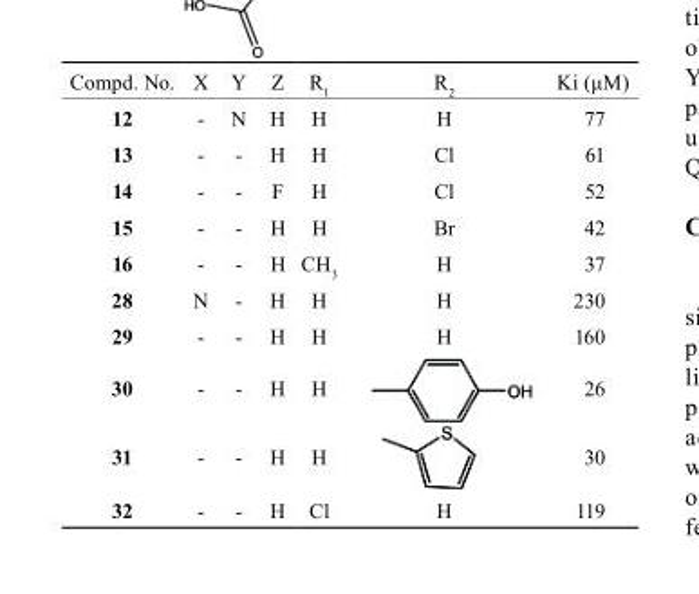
<table><thead><tr><td>Compd. No.</td><td>X</td><td>Y</td><td>Z</td><td>R<sub>1</sub></td><td>R<sub>2</sub></td><td>Ki (μM)</td></tr></thead><tbody><tr><td>12</td><td>-</td><td>N</td><td>H</td><td>H</td><td>H</td><td>77</td></tr><tr><td>13</td><td>-</td><td>-</td><td>H</td><td>H</td><td>Cl</td><td>61</td></tr><tr><td>14</td><td>-</td><td>-</td><td>F</td><td>H</td><td>Cl</td><td>52</td></tr><tr><td>15</td><td>-</td><td>-</td><td>H</td><td>H</td><td>Br</td><td>42</td></tr><tr><td>16</td><td>-</td><td>-</td><td>H</td><td>CH<sub>3</sub></td><td>H</td><td>37</td></tr><tr><td>28</td><td>N</td><td>-</td><td>H</td><td>H</td><td>H</td><td>230</td></tr><tr><td>29</td><td>-</td><td>-</td><td>H</td><td>H</td><td>H</td><td>160</td></tr><tr><td>30</td><td>-</td><td>-</td><td>H</td><td>H</td><td></td><td>26</td></tr><tr><td>31</td><td>-</td><td>-</td><td>H</td><td>H</td><td></td><td>30</td></tr><tr><td>32</td><td>-</td><td>-</td><td>H</td><td>Cl</td><td>H</td><td>119</td></tr></tbody></table>